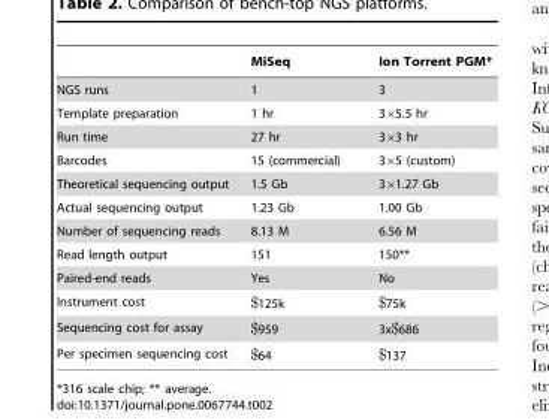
<table><thead><tr><td></td><td>MiSeq</td><td>Ion Torrent PGM*</td></tr></thead><tbody><tr><td>NGS runs</td><td>1</td><td>3</td></tr><tr><td>Template preparation</td><td>1 hr</td><td>3×5.5 hr</td></tr><tr><td>Run time</td><td>27 hr</td><td>3×3 hr</td></tr><tr><td>Barcodes</td><td>15 (commercial)</td><td>3×5 (custom)</td></tr><tr><td>Theoretical sequencing output</td><td>1.5 Gb</td><td>3×1.27 Gb</td></tr><tr><td>Actual sequencing output</td><td>1.23 Gb</td><td>1.00 Gb</td></tr><tr><td>Number of sequencing reads</td><td>8.13 M</td><td>6.56 M</td></tr><tr><td>Read length output</td><td>151</td><td>150**</td></tr><tr><td>Paired-end reads</td><td>Yes</td><td>No</td></tr><tr><td>Instrument cost</td><td>$125k</td><td>$75k</td></tr><tr><td>Sequencing cost for assay</td><td>$959</td><td>3x$686</td></tr><tr><td>Per specimen sequencing cost</td><td>$64</td><td>$137</td></tr></tbody></table>